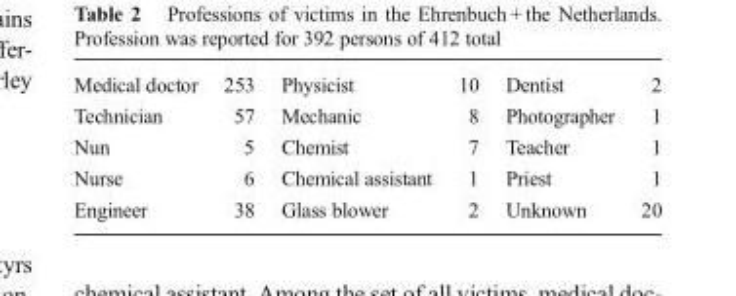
<table><tbody><tr><td>Medical doctor</td><td>253</td><td>Physicist</td><td>10</td><td>Dentist</td><td>2</td></tr><tr><td>Technician</td><td>57</td><td>Mechanic</td><td>8</td><td>Photographer</td><td>1</td></tr><tr><td>Nun</td><td>5</td><td>Chemist</td><td>7</td><td>Teacher</td><td>1</td></tr><tr><td>Nurse</td><td>6</td><td>Chemical assistant</td><td>1</td><td>Priest</td><td>1</td></tr><tr><td>Engineer</td><td>38</td><td>Glass blower</td><td>2</td><td>Unknown</td><td>20</td></tr></tbody></table>